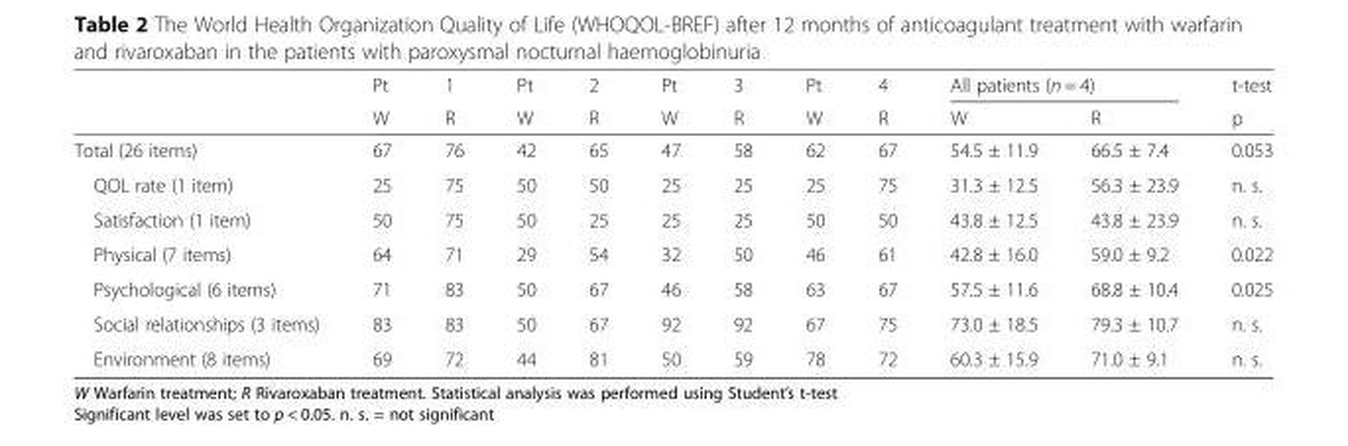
<table><thead><tr><td rowspan="2"></td><td rowspan="2">Pt W</td><td rowspan="2">1 R</td><td rowspan="2">Pt W</td><td rowspan="2">2 R</td><td rowspan="2">Pt W</td><td rowspan="2">3 R</td><td rowspan="2">Pt W</td><td rowspan="2">4 R</td><td colspan="2">All patients (n = 4)</td><td rowspan="2">t-test p</td></tr><tr><td>W</td><td>R</td></tr></thead><tbody><tr><td>Total (26 items)</td><td>67</td><td>76</td><td>42</td><td>65</td><td>47</td><td>58</td><td>62</td><td>67</td><td>54.5 ± 11.9</td><td>66.5 ± 7.4</td><td>0.053</td></tr><tr><td>QOL rate (1 item)</td><td>25</td><td>75</td><td>50</td><td>50</td><td>25</td><td>25</td><td>25</td><td>75</td><td>31.3 ± 12.5</td><td>56.3 ± 23.9</td><td>n. s.</td></tr><tr><td>Satisfaction (1 item)</td><td>50</td><td>75</td><td>50</td><td>25</td><td>25</td><td>25</td><td>50</td><td>50</td><td>43.8 ± 12.5</td><td>43.8 ± 23.9</td><td>n. s.</td></tr><tr><td>Physical (7 items)</td><td>64</td><td>71</td><td>29</td><td>54</td><td>32</td><td>50</td><td>46</td><td>61</td><td>42.8 ± 16.0</td><td>59.0 ± 9.2</td><td>0.022</td></tr><tr><td>Psychological (6 items)</td><td>71</td><td>83</td><td>50</td><td>67</td><td>46</td><td>58</td><td>63</td><td>67</td><td>57.5 ± 11.6</td><td>68.8 ± 10.4</td><td>0.025</td></tr><tr><td>Social relationships (3 items)</td><td>83</td><td>83</td><td>50</td><td>67</td><td>92</td><td>92</td><td>67</td><td>75</td><td>73.0 ± 18.5</td><td>79.3 ± 10.7</td><td>n. s.</td></tr><tr><td>Environment (8 items)</td><td>69</td><td>72</td><td>44</td><td>81</td><td>50</td><td>59</td><td>78</td><td>72</td><td>60.3 ± 15.9</td><td>71.0 ± 9.1</td><td>n. s.</td></tr></tbody></table>